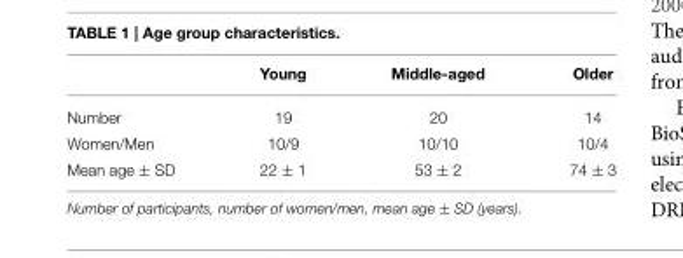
<table><thead><tr><td></td><td>Young</td><td>Middle-aged</td><td>Older</td></tr></thead><tbody><tr><td>Number</td><td>19</td><td>20</td><td>14</td></tr><tr><td>Women/Men</td><td>10/9</td><td>10/10</td><td>10/4</td></tr><tr><td>Mean age ± SD</td><td>22 ± 1</td><td>53 ± 2</td><td>74 ± 3</td></tr></tbody></table>